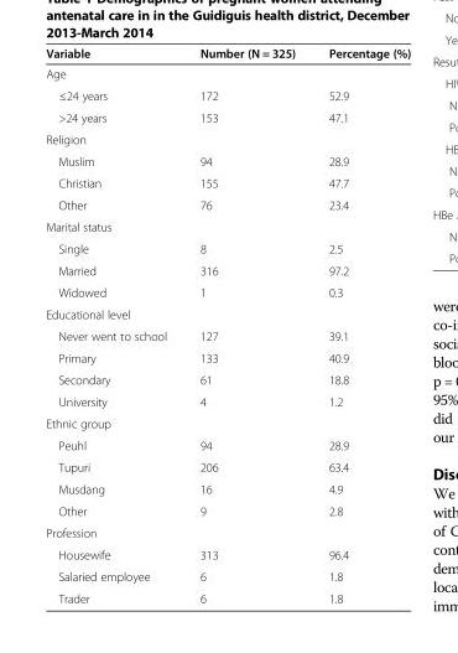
<table><thead><tr><td>Variable</td><td>Number (N = 325)</td><td>Percentage (%)</td></tr></thead><tbody><tr><td colspan="3">Age</td></tr><tr><td>≤24 years</td><td>172</td><td>52.9</td></tr><tr><td>&gt;24 years</td><td>153</td><td>47.1</td></tr><tr><td colspan="3">Religion</td></tr><tr><td>Muslim</td><td>94</td><td>28.9</td></tr><tr><td>Christian</td><td>155</td><td>47.7</td></tr><tr><td>Other</td><td>76</td><td>23.4</td></tr><tr><td colspan="3">Marital status</td></tr><tr><td>Single</td><td>8</td><td>2.5</td></tr><tr><td>Married</td><td>316</td><td>97.2</td></tr><tr><td>Widowed</td><td>1</td><td>0.3</td></tr><tr><td colspan="3">Educational level</td></tr><tr><td>Never went to school</td><td>127</td><td>39.1</td></tr><tr><td>Primary</td><td>133</td><td>40.9</td></tr><tr><td>Secondary</td><td>61</td><td>18.8</td></tr><tr><td>University</td><td>4</td><td>1.2</td></tr><tr><td colspan="3">Ethnic group</td></tr><tr><td>Peuhl</td><td>94</td><td>28.9</td></tr><tr><td>Tupuri</td><td>206</td><td>63.4</td></tr><tr><td>Musdang</td><td>16</td><td>4.9</td></tr><tr><td>Other</td><td>9</td><td>2.8</td></tr><tr><td colspan="3">Profession</td></tr><tr><td>Housewife</td><td>313</td><td>96.4</td></tr><tr><td>Salaried employee</td><td>6</td><td>1.8</td></tr><tr><td>Trader</td><td>6</td><td>1.8</td></tr></tbody></table>